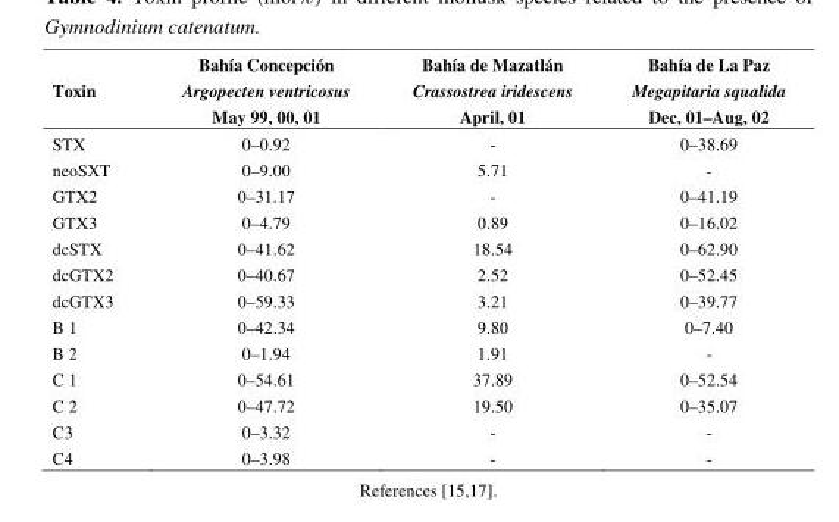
<table><thead><tr><td>Toxin</td><td>Bahía Concepción Argopecten ventricosus May 99, 00, 01</td><td>Bahía de Mazatlán Crassostrea iridescens April, 01</td><td>Bahía de La Paz Megapitaria squalida Dec, 01–Aug, 02</td></tr></thead><tbody><tr><td>STX</td><td>0–0.92</td><td>-</td><td>0–38.69</td></tr><tr><td>neoSXT</td><td>0–9.00</td><td>5.71</td><td>-</td></tr><tr><td>GTX2</td><td>0–31.17</td><td>-</td><td>0–41.19</td></tr><tr><td>GTX3</td><td>0–4.79</td><td>0.89</td><td>0–16.02</td></tr><tr><td>dcSTX</td><td>0–41.62</td><td>18.54</td><td>0–62.90</td></tr><tr><td>dcGTX2</td><td>0–40.67</td><td>2.52</td><td>0–52.45</td></tr><tr><td>dcGTX3</td><td>0–59.33</td><td>3.21</td><td>0–39.77</td></tr><tr><td>B 1</td><td>0–42.34</td><td>9.80</td><td>0–7.40</td></tr><tr><td>B 2</td><td>0–1.94</td><td>1.91</td><td>-</td></tr><tr><td>C 1</td><td>0–54.61</td><td>37.89</td><td>0–52.54</td></tr><tr><td>C 2</td><td>0–47.72</td><td>19.50</td><td>0–35.07</td></tr><tr><td>C3</td><td>0–3.32</td><td>-</td><td>-</td></tr><tr><td>C4</td><td>0–3.98</td><td>-</td><td>-</td></tr></tbody></table>